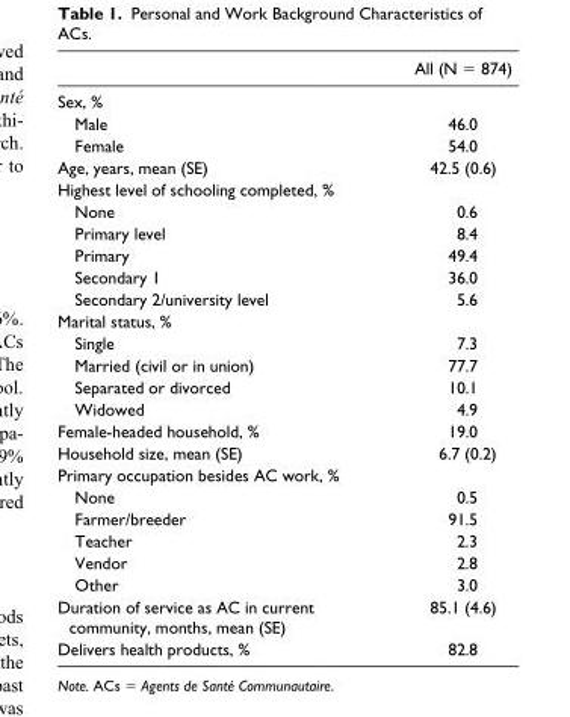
<table><thead><tr><td></td><td>All (N = 874)</td></tr></thead><tbody><tr><td colspan="2">Sex, %</td></tr><tr><td>Male</td><td>46.0</td></tr><tr><td>Female</td><td>54.0</td></tr><tr><td>Age, years, mean (SE)</td><td>42.5 (0.6)</td></tr><tr><td colspan="2">Highest level of schooling completed, %</td></tr><tr><td>None</td><td>0.6</td></tr><tr><td>Primary level</td><td>8.4</td></tr><tr><td>Primary</td><td>49.4</td></tr><tr><td>Secondary 1</td><td>36.0</td></tr><tr><td>Secondary 2/university level</td><td>5.6</td></tr><tr><td colspan="2">Marital status, %</td></tr><tr><td>Single</td><td>7.3</td></tr><tr><td>Married (civil or in union)</td><td>77.7</td></tr><tr><td>Separated or divorced</td><td>10.1</td></tr><tr><td>Widowed</td><td>4.9</td></tr><tr><td>Female-headed household, %</td><td>19.0</td></tr><tr><td>Household size, mean (SE)</td><td>6.7 (0.2)</td></tr><tr><td colspan="2">Primary occupation besides AC work, %</td></tr><tr><td>None</td><td>0.5</td></tr><tr><td>Farmer/breeder</td><td>91.5</td></tr><tr><td>Teacher</td><td>2.3</td></tr><tr><td>Vendor</td><td>2.8</td></tr><tr><td>Other</td><td>3.0</td></tr><tr><td>Duration of service as AC in current community, months, mean (SE)</td><td>85.1 (4.6)</td></tr><tr><td>Delivers health products, %</td><td>82.8</td></tr></tbody></table>